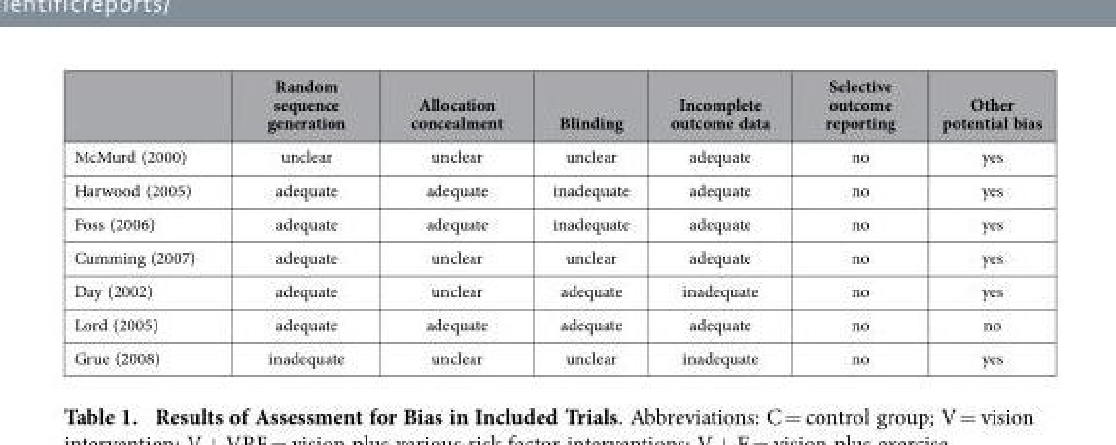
<table><thead><tr><td></td><td>Random sequence generation</td><td>Allocation concealment</td><td>Blinding</td><td>Incomplete outcome data</td><td>Selective outcome reporting</td><td>Other potential bias</td></tr></thead><tbody><tr><td>McMurd (2000)</td><td>unclear</td><td>unclear</td><td>unclear</td><td>adequate</td><td>no</td><td>yes</td></tr><tr><td>Harwood (2005)</td><td>adequate</td><td>adequate</td><td>inadequate</td><td>adequate</td><td>no</td><td>yes</td></tr><tr><td>Foss (2006)</td><td>adequate</td><td>adequate</td><td>inadequate</td><td>adequate</td><td>no</td><td>yes</td></tr><tr><td>Cumming (2007)</td><td>adequate</td><td>unclear</td><td>unclear</td><td>adequate</td><td>no</td><td>yes</td></tr><tr><td>Day (2002)</td><td>adequate</td><td>unclear</td><td>adequate</td><td>inadequate</td><td>no</td><td>yes</td></tr><tr><td>Lord (2005)</td><td>adequate</td><td>adequate</td><td>adequate</td><td>adequate</td><td>no</td><td>no</td></tr><tr><td>Grue (2008)</td><td>inadequate</td><td>unclear</td><td>unclear</td><td>inadequate</td><td>no</td><td>yes</td></tr></tbody></table>